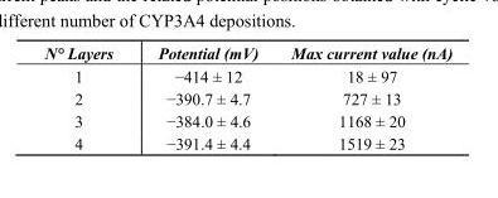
<table><thead><tr><td>N° Layers</td><td>Potential (mV)</td><td>Max current value (nA)</td></tr></thead><tbody><tr><td>1</td><td>−414 ± 12</td><td>18 ± 97</td></tr><tr><td>2</td><td>−390.7 ± 4.7</td><td>727 ± 13</td></tr><tr><td>3</td><td>−384.0 ± 4.6</td><td>1168 ± 20</td></tr><tr><td>4</td><td>−391.4 ± 4.4</td><td>1519 ± 23</td></tr></tbody></table>